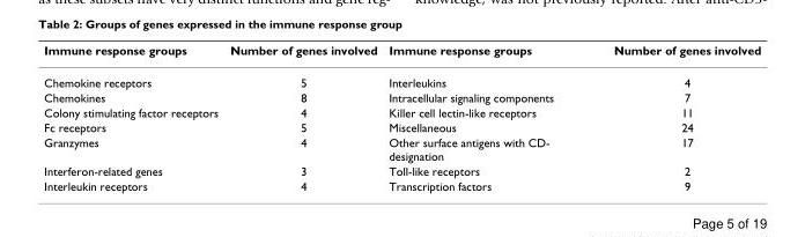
<table><thead><tr><td>Immune response groups</td><td>Number of genes involved</td><td>Immune response groups</td><td>Number of genes involved</td></tr></thead><tbody><tr><td>Chemokine receptors</td><td>5</td><td>Interleukins</td><td>4</td></tr><tr><td>Chemokines</td><td>8</td><td>Intracellular signaling components</td><td>7</td></tr><tr><td>Colony stimulating factor receptors</td><td>4</td><td>Killer cell lectin-like receptors</td><td>11</td></tr><tr><td>Fc receptors</td><td>5</td><td>Miscellaneous</td><td>24</td></tr><tr><td>Granzymes</td><td>4</td><td>Other surface antigens with CD- designation</td><td>17</td></tr><tr><td>Interferon-related genes</td><td>3</td><td>Toll-like receptors</td><td>2</td></tr><tr><td>Interleukin receptors</td><td>4</td><td>Transcription factors</td><td>9</td></tr></tbody></table>